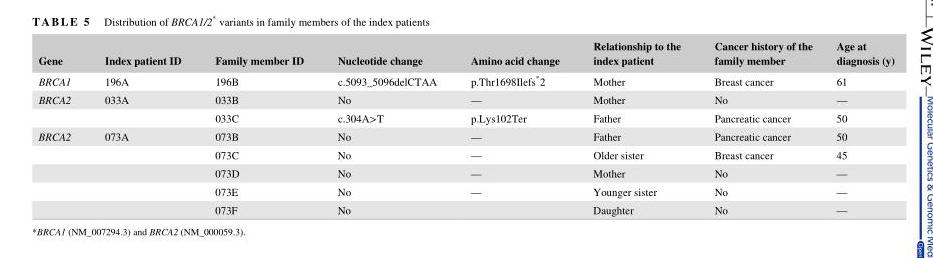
<table><thead><tr><td>Gene</td><td>Index patient ID</td><td>Family member ID</td><td>Nucleotide change</td><td>Amino acid change</td><td>Relationship to the index patient</td><td>Cancer history of the family member</td><td>Age at diagnosis (y)</td></tr></thead><tbody><tr><td>BRCA1</td><td>196A</td><td>196B</td><td>c.5093_5096delCTAA</td><td>p.Thr1698Ilefs* 2</td><td>Mother</td><td>Breast cancer</td><td>61</td></tr><tr><td rowspan="2">BRCA2</td><td>033A</td><td>033B</td><td>No</td><td>—</td><td>Mother</td><td>No</td><td>—</td></tr><tr><td></td><td>033C</td><td>c.304A&gt;T</td><td>p.Lys102Ter</td><td>Father</td><td>Pancreatic cancer</td><td>50</td></tr><tr><td rowspan="5">BRCA2</td><td>073A</td><td>073B</td><td>No</td><td>—</td><td>Father</td><td>Pancreatic cancer</td><td>50</td></tr><tr><td></td><td>073C</td><td>No</td><td>—</td><td>Older sister</td><td>Breast cancer</td><td>45</td></tr><tr><td></td><td>073D</td><td>No</td><td>—</td><td>Mother</td><td>No</td><td>—</td></tr><tr><td></td><td>073E</td><td>No</td><td>—</td><td>Younger sister</td><td>No</td><td>—</td></tr><tr><td></td><td>073F</td><td>No</td><td></td><td>Daughter</td><td>No</td><td>—</td></tr></tbody></table>